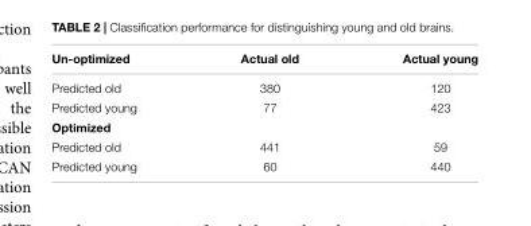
<table><thead><tr><td>Un-optimized</td><td>Actual old</td><td>Actual young</td></tr></thead><tbody><tr><td>Predicted old</td><td>380</td><td>120</td></tr><tr><td>Predicted young</td><td>77</td><td>423</td></tr><tr><td colspan="3">Optimized</td></tr><tr><td>Predicted old</td><td>441</td><td>59</td></tr><tr><td>Predicted young</td><td>60</td><td>440</td></tr></tbody></table>